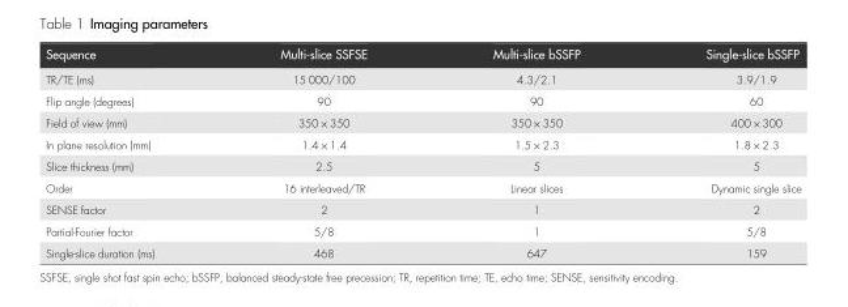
<table><thead><tr><td>Sequence</td><td>Multi-slice SSFSE</td><td>Multi-slice bSSFP</td><td>Single-slice bSSFP</td></tr></thead><tbody><tr><td>TR/TE (ms)</td><td>15 000/100</td><td>4.3/2.1</td><td>3.9/1.9</td></tr><tr><td>Flip angle (degrees)</td><td>90</td><td>90</td><td>60</td></tr><tr><td>Field of view (mm)</td><td>350 × 350</td><td>350 × 350</td><td>400 × 300</td></tr><tr><td>In plane resolution (mm)</td><td>1.4 × 1.4</td><td>1.5 × 2.3</td><td>1.8 × 2.3</td></tr><tr><td>Slice thickness (mm)</td><td>2.5</td><td>5</td><td>5</td></tr><tr><td>Order</td><td>16 interleaved/TR</td><td>Linear slices</td><td>Dynamic single slice</td></tr><tr><td>SENSE factor</td><td>2</td><td>1</td><td>2</td></tr><tr><td>Partial-Fourier factor</td><td>5/8</td><td>1</td><td>5/8</td></tr><tr><td>Single-slice duration (ms)</td><td>468</td><td>647</td><td>159</td></tr></tbody></table>